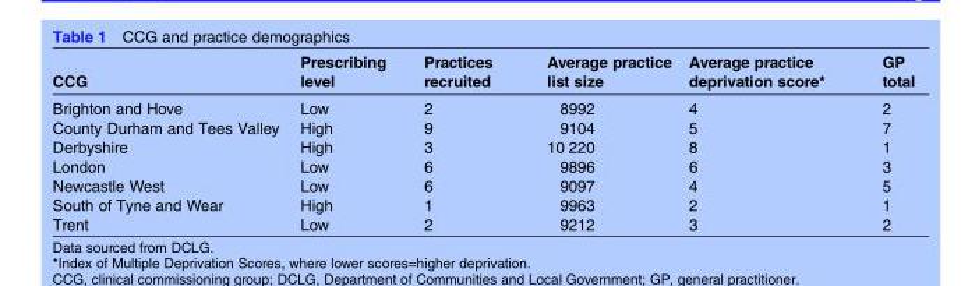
<table><thead><tr><td>CCG</td><td>Prescribing level</td><td>Practices recruited</td><td>Average practice list size</td><td>Average practice deprivation score*</td><td>GP total</td></tr></thead><tbody><tr><td>Brighton and Hove</td><td>Low</td><td>2</td><td>8992</td><td>4</td><td>2</td></tr><tr><td>County Durham and Tees Valley</td><td>High</td><td>9</td><td>9104</td><td>5</td><td>7</td></tr><tr><td>Derbyshire</td><td>High</td><td>3</td><td>10 220</td><td>8</td><td>1</td></tr><tr><td>London</td><td>Low</td><td>6</td><td>9896</td><td>6</td><td>3</td></tr><tr><td>Newcastle West</td><td>Low</td><td>6</td><td>9097</td><td>4</td><td>5</td></tr><tr><td>South of Tyne and Wear</td><td>High</td><td>1</td><td>9963</td><td>2</td><td>1</td></tr><tr><td>Trent</td><td>Low</td><td>2</td><td>9212</td><td>3</td><td>2</td></tr></tbody></table>